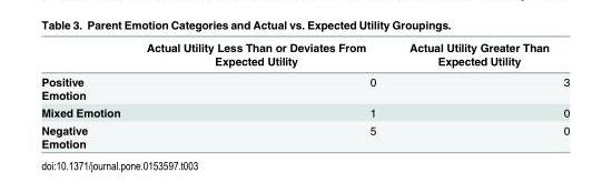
<table><thead><tr><td></td><td>Actual Utility Less Than or Deviates From Expected Utility</td><td>Actual Utility Greater Than Expected Utility</td></tr></thead><tbody><tr><td>Positive Emotion</td><td>0</td><td>3</td></tr><tr><td>Mixed Emotion</td><td>1</td><td>0</td></tr><tr><td>Negative Emotion</td><td>5</td><td>0</td></tr></tbody></table>